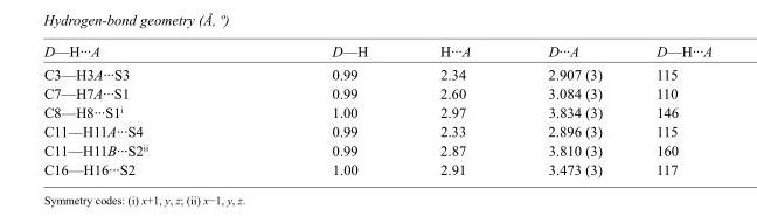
<table><tbody><tr><td>D—H···A</td><td>D—H</td><td>H···A</td><td>D···A</td><td>D—H···A</td></tr><tr><td>C3—H3A···S3</td><td>0.99</td><td>2.34</td><td>2.907 (3)</td><td>115</td></tr><tr><td>C7—H7A···S1</td><td>0.99</td><td>2.60</td><td>3.084 (3)</td><td>110</td></tr><tr><td>C8—H8···S1<sup>i</sup></td><td>1.00</td><td>2.97</td><td>3.834 (3)</td><td>146</td></tr><tr><td>C11—H11A···S4</td><td>0.99</td><td>2.33</td><td>2.896 (3)</td><td>115</td></tr><tr><td>C11—H11B···S2<sup>ii</sup></td><td>0.99</td><td>2.87</td><td>3.810 (3)</td><td>160</td></tr><tr><td>C16—H16···S2</td><td>1.00</td><td>2.91</td><td>3.473 (3)</td><td>117</td></tr></tbody></table>